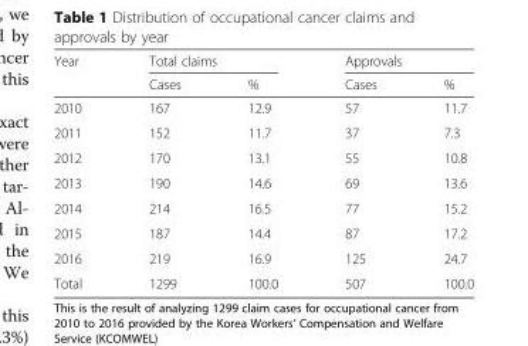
<table><thead><tr><td rowspan="2">Year</td><td colspan="2">Total claims</td><td colspan="2">Approvals</td></tr><tr><td>Cases</td><td>%</td><td>Cases</td><td>%</td></tr></thead><tbody><tr><td>2010</td><td>167</td><td>12.9</td><td>57</td><td>11.7</td></tr><tr><td>2011</td><td>152</td><td>11.7</td><td>37</td><td>7.3</td></tr><tr><td>2012</td><td>170</td><td>13.1</td><td>55</td><td>10.8</td></tr><tr><td>2013</td><td>190</td><td>14.6</td><td>69</td><td>13.6</td></tr><tr><td>2014</td><td>214</td><td>16.5</td><td>77</td><td>15.2</td></tr><tr><td>2015</td><td>187</td><td>14.4</td><td>87</td><td>17.2</td></tr><tr><td>2016</td><td>219</td><td>16.9</td><td>125</td><td>24.7</td></tr><tr><td>Total</td><td>1299</td><td>100.0</td><td>507</td><td>100.0</td></tr></tbody></table>